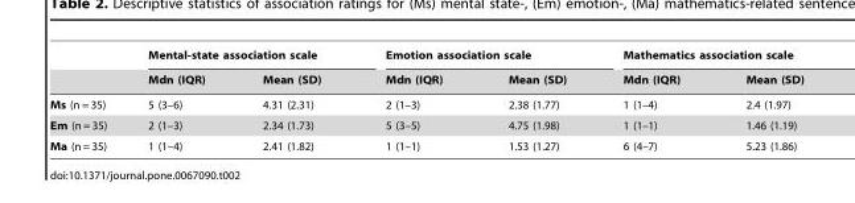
<table><thead><tr><td rowspan="2"></td><td colspan="2">Mental-state association scale</td><td colspan="2">Emotion association scale</td><td colspan="2">Mathematics association scale</td></tr><tr><td>Mdn (IQR)</td><td>Mean (SD)</td><td>Mdn (IQR)</td><td>Mean (SD)</td><td>Mdn (IQR)</td><td>Mean (SD)</td></tr></thead><tbody><tr><td>Ms (n = 35)</td><td>5 (3–6)</td><td>4.31 (2.31)</td><td>2 (1–3)</td><td>2.38 (1.77)</td><td>1 (1–4)</td><td>2.4 (1.97)</td></tr><tr><td>Em (n = 35)</td><td>2 (1–3)</td><td>2.34 (1.73)</td><td>5 (3–5)</td><td>4.75 (1.98)</td><td>1 (1–1)</td><td>1.46 (1.19)</td></tr><tr><td>Ma (n = 35)</td><td>1 (1–4)</td><td>2.41 (1.82)</td><td>1 (1–1)</td><td>1.53 (1.27)</td><td>6 (4–7)</td><td>5.23 (1.86)</td></tr></tbody></table>